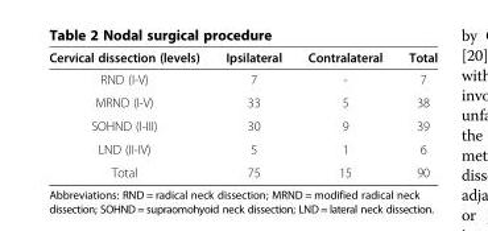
<table><thead><tr><td>Cervical dissection (levels)</td><td>Ipsilateral</td><td>Contralateral</td><td>Total</td></tr></thead><tbody><tr><td>RND (I-V)</td><td>7</td><td>-</td><td>7</td></tr><tr><td>MRND (I-V)</td><td>33</td><td>5</td><td>38</td></tr><tr><td>SOHND (I-III)</td><td>30</td><td>9</td><td>39</td></tr><tr><td>LND (II-IV)</td><td>5</td><td>1</td><td>6</td></tr><tr><td>Total</td><td>75</td><td>15</td><td>90</td></tr></tbody></table>